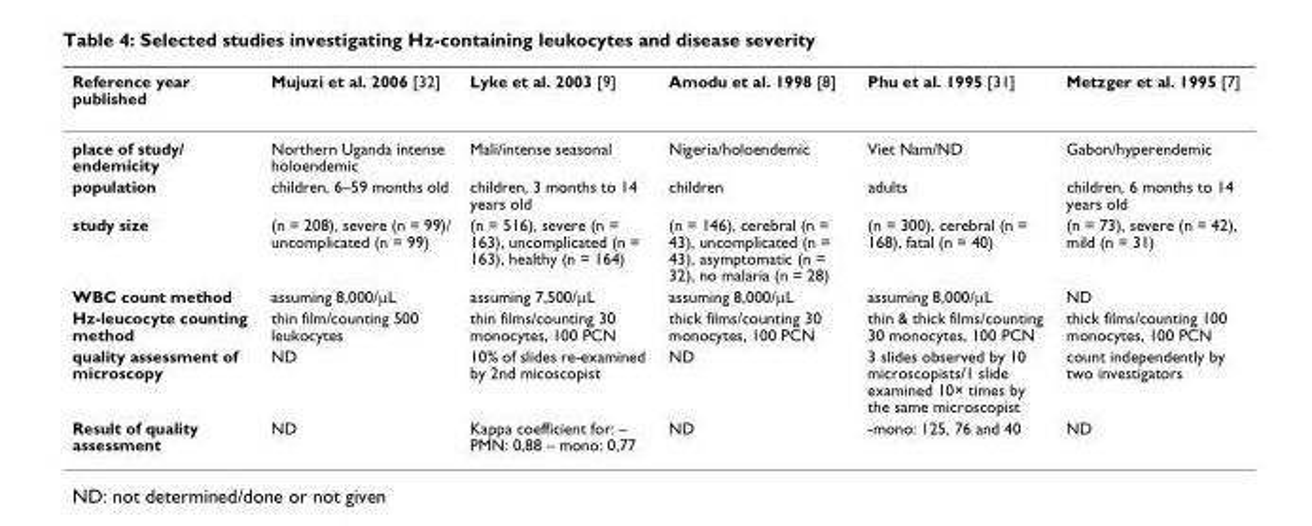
<table><thead><tr><td>Reference year published</td><td>Mujuzi et al. 2006 [32]</td><td>Lyke et al. 2003 [9]</td><td>Amodu et al. 1998 [8]</td><td>Phu et al. 1995 [31]</td><td>Metzger et al. 1995 [7]</td></tr></thead><tbody><tr><td>place of study/ endemicity</td><td>Northern Uganda intense holoendemic</td><td>Mali/intense seasonal</td><td>Nigeria/holoendemic</td><td>Viet Nam/ND</td><td>Gabon/hyperendemic</td></tr><tr><td>population</td><td>children, 6–59 months old</td><td>children, 3 months to 14 years old</td><td>children</td><td>adults</td><td>children, 6 months to 14 years old</td></tr><tr><td>study size</td><td>(n = 208), severe (n = 99)/ uncomplicated (n = 99)</td><td>(n = 516), severe (n = 163), uncomplicated (n = 163), healthy (n = 164)</td><td>(n = 146), cerebral (n = 43), uncomplicated (n = 43), asymptomatic (n = 32), no malaria (n = 28)</td><td>(n = 300), cerebral (n = 168), fatal (n = 40)</td><td>(n = 73), severe (n = 42), mild (n = 31)</td></tr><tr><td>WBC count method</td><td>assuming 8,000/μL</td><td>assuming 7,500/μL</td><td>assuming 8,000/μL</td><td>assuming 8,000/μL</td><td>ND</td></tr><tr><td>Hz-leucocyte counting method</td><td>thin film/counting 500 leukocytes</td><td>thin films/counting 30 monocytes, 100 PCN</td><td>thick films/counting 30 monocytes, 100 PCN</td><td>thin &amp; thick films/counting 30 monocytes, 100 PCN</td><td>thick films/counting 100 monocytes, 100 PCN</td></tr><tr><td>quality assessment of microscopy</td><td>ND</td><td>10% of slides re-examined by 2nd micoscopist</td><td>ND</td><td>3 slides observed by 10 microscopists/1 slide examined 10× times by the same microscopist</td><td>count independently by two investigators</td></tr><tr><td>Result of quality assessment</td><td>ND</td><td>Kappa coefficient for: – PMN: 0,88 – mono: 0,77</td><td>ND</td><td>-mono: 125, 76 and 40</td><td>ND</td></tr></tbody></table>